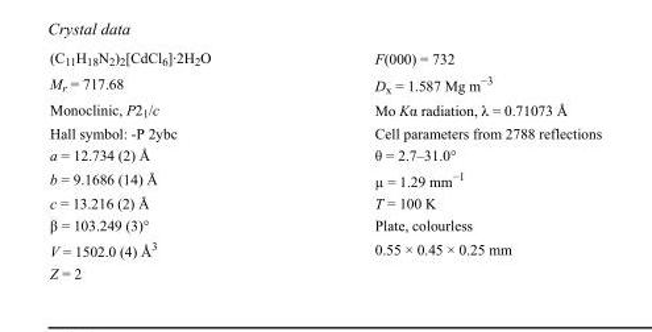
<table><tbody><tr><td>(C<sub>11</sub>H<sub>18</sub>N<sub>2</sub>)<sub>2</sub>[CdCl<sub>6</sub>]·2H<sub>2</sub>O</td><td>F(000) = 732</td></tr><tr><td>M<sub>r</sub> = 717.68</td><td>D<sub>x</sub> = 1.587 Mg m<sup>−3</sup></td></tr><tr><td>Monoclinic, P2<sub>1</sub>/c</td><td>Mo Kα radiation, λ = 0.71073 Å</td></tr><tr><td>Hall symbol: -P 2ybc</td><td>Cell parameters from 2788 reflections</td></tr><tr><td>a = 12.734 (2) Å</td><td>θ = 2.7–31.0°</td></tr><tr><td>b = 9.1686 (14) Å</td><td>µ = 1.29 mm<sup>−1</sup></td></tr><tr><td>c = 13.216 (2) Å</td><td>T = 100 K</td></tr><tr><td>β = 103.249 (3)°</td><td>Plate, colourless</td></tr><tr><td>V = 1502.0 (4) Å<sup>3</sup></td><td>0.55 × 0.45 × 0.25 mm</td></tr><tr><td>Z = 2</td><td></td></tr></tbody></table>